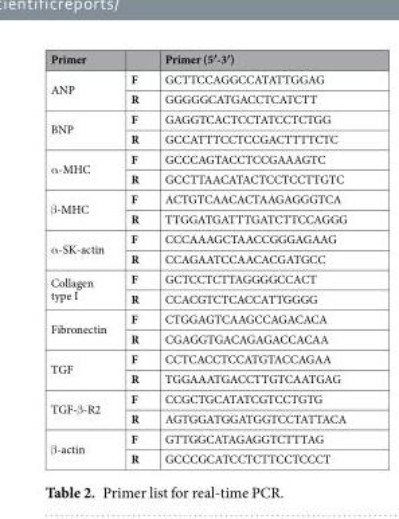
<table><thead><tr><td>Primer</td><td></td><td>Primer (5′-3′)</td></tr></thead><tbody><tr><td rowspan="2">ANP</td><td>F</td><td>GCTTCCAGGCCATATTGGAG</td></tr><tr><td>R</td><td>GGGGGCATGACCTCATCTT</td></tr><tr><td rowspan="2">BNP</td><td>F</td><td>GAGGTCACTCCTATCCTCTGG</td></tr><tr><td>R</td><td>GCCATTTCCTCCGACTTTTCTC</td></tr><tr><td rowspan="2">α-MHC</td><td>F</td><td>GCCCAGTACCTCCGAAAGTC</td></tr><tr><td>R</td><td>GCCTTAACATACTCCTCCTTGTC</td></tr><tr><td rowspan="2">β-MHC</td><td>F</td><td>ACTGTCAACACTAAGAGGGTCA</td></tr><tr><td>R</td><td>TTGGATGATTTGATCTTCCAGGG</td></tr><tr><td rowspan="2">α-SK-actin</td><td>F</td><td>CCCAAAGCTAACCGGGAGAAG</td></tr><tr><td>R</td><td>CCAGAATCCAACACGATGCC</td></tr><tr><td rowspan="2">Collagen type I</td><td>F</td><td>GCTCCTCTTAGGGGCCACT</td></tr><tr><td>R</td><td>CCACGTCTCACCATTGGGG</td></tr><tr><td rowspan="2">Fibronectin</td><td>F</td><td>CTGGAGTCAAGCCAGACACA</td></tr><tr><td>R</td><td>CGAGGTGACAGAGACCACAA</td></tr><tr><td rowspan="2">TGF</td><td>F</td><td>CCTCACCTCCATGTACCAGAA</td></tr><tr><td>R</td><td>TGGAAATGACCTTGTCAATGAG</td></tr><tr><td rowspan="2">TGF-β-R2</td><td>F</td><td>CCGCTGCATATCGTCCTGTG</td></tr><tr><td>R</td><td>AGTGGATGGATGGTCCTATTACA</td></tr><tr><td rowspan="2">β-actin</td><td>F</td><td>GTTGGCATAGAGGTCTTTAG</td></tr><tr><td>R</td><td>GCCCGCATCCTCTTCCTCCCT</td></tr></tbody></table>